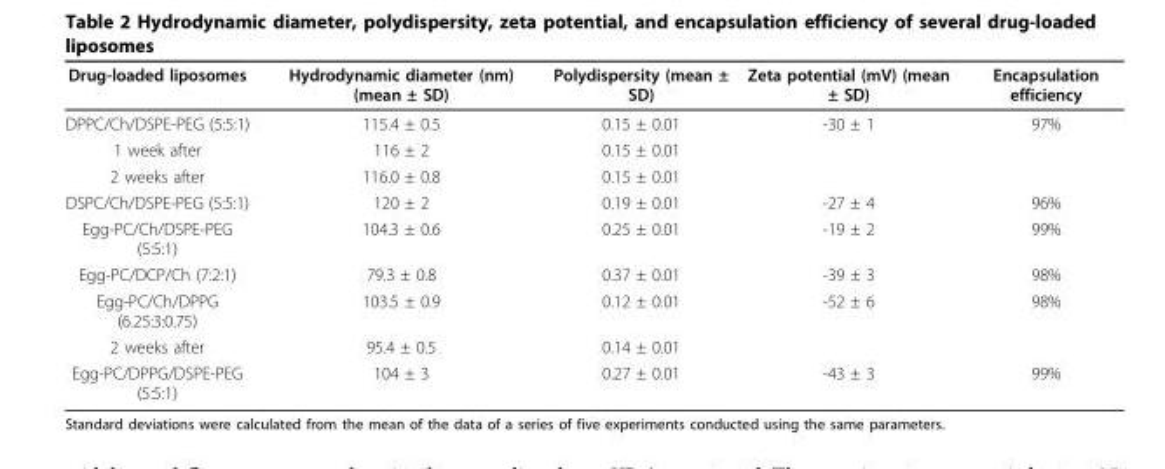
<table><thead><tr><td>Drug-loaded liposomes</td><td>Hydrodynamic diameter (nm) (mean ± SD)</td><td>Polydispersity (mean ± SD)</td><td>Zeta potential (mV) (mean ± SD)</td><td>Encapsulation efficiency</td></tr></thead><tbody><tr><td>DPPC/Ch/DSPE-PEG (5:5:1)</td><td>115.4 ± 0.5</td><td>0.15 ± 0.01</td><td>-30 ± 1</td><td>97%</td></tr><tr><td>1 week after</td><td>116 ± 2</td><td>0.15 ± 0.01</td><td></td><td></td></tr><tr><td>2 weeks after</td><td>116.0 ± 0.8</td><td>0.15 ± 0.01</td><td></td><td></td></tr><tr><td>DSPC/Ch/DSPE-PEG (5:5:1)</td><td>120 ± 2</td><td>0.19 ± 0.01</td><td>-27 ± 4</td><td>96%</td></tr><tr><td>Egg-PC/Ch/DSPE-PEG (5:5:1)</td><td>104.3 ± 0.6</td><td>0.25 ± 0.01</td><td>-19 ± 2</td><td>99%</td></tr><tr><td>Egg-PC/DCP/Ch (7:2:1)</td><td>79.3 ± 0.8</td><td>0.37 ± 0.01</td><td>-39 ± 3</td><td>98%</td></tr><tr><td>Egg-PC/Ch/DPPG (6.25:3:0.75)</td><td>103.5 ± 0.9</td><td>0.12 ± 0.01</td><td>-52 ± 6</td><td>98%</td></tr><tr><td>2 weeks after</td><td>95.4 ± 0.5</td><td>0.14 ± 0.01</td><td></td><td></td></tr><tr><td>Egg-PC/DPPG/DSPE-PEG (5:5:1)</td><td>104 ± 3</td><td>0.27 ± 0.01</td><td>-43 ± 3</td><td>99%</td></tr></tbody></table>